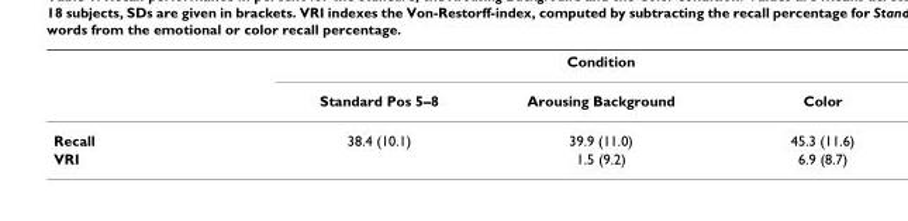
<table><thead><tr><td rowspan="2"></td><td colspan="3">Condition</td></tr><tr><td>Standard Pos 5–8</td><td>Arousing Background</td><td>Color</td></tr></thead><tbody><tr><td>Recall</td><td>38.4 (10.1)</td><td>39.9 (11.0)</td><td>45.3 (11.6)</td></tr><tr><td>VRI</td><td></td><td>1.5 (9.2)</td><td>6.9 (8.7)</td></tr></tbody></table>